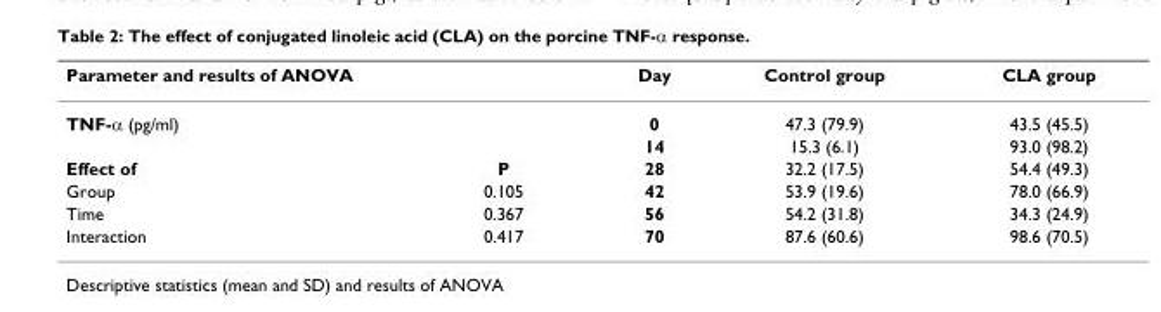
<table><thead><tr><td colspan="2">Parameter and results of ANOVA</td><td rowspan="2">Day 0</td><td rowspan="2">Control group 47.3 (79.9)</td><td rowspan="2">CLA group 43.5 (45.5)</td></tr><tr><td>TNF-α (pg/ml)</td><td></td></tr></thead><tbody><tr><td></td><td></td><td>14</td><td>15.3 (6.1)</td><td>93.0 (98.2)</td></tr><tr><td>Effect of</td><td>P</td><td>28</td><td>32.2 (17.5)</td><td>54.4 (49.3)</td></tr><tr><td>Group</td><td>0.105</td><td>42</td><td>53.9 (19.6)</td><td>78.0 (66.9)</td></tr><tr><td>Time</td><td>0.367</td><td>56</td><td>54.2 (31.8)</td><td>34.3 (24.9)</td></tr><tr><td>Interaction</td><td>0.417</td><td>70</td><td>87.6 (60.6)</td><td>98.6 (70.5)</td></tr></tbody></table>